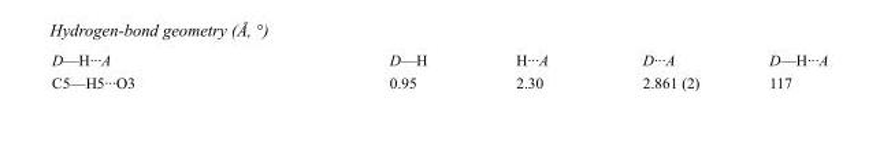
<table><tbody><tr><td>D—H···A</td><td>D—H</td><td>H···A</td><td>D···A</td><td>D—H···A</td></tr><tr><td>C5—H5···O3</td><td>0.95</td><td>2.30</td><td>2.861 (2)</td><td>117</td></tr></tbody></table>